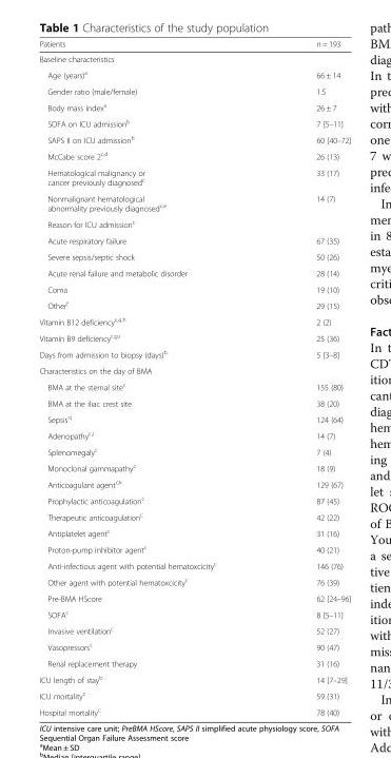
<table><thead><tr><td>Patients</td><td>n = 193</td></tr></thead><tbody><tr><td colspan="2">Baseline characteristics</td></tr><tr><td>Age (years)<sup>a</sup></td><td>66 ± 14</td></tr><tr><td>Gender ratio (male/female)</td><td>1.5</td></tr><tr><td>Body mass index<sup>a</sup></td><td>26 ± 7</td></tr><tr><td>SOFA on ICU admission<sup>b</sup></td><td>7 [5–11]</td></tr><tr><td>SAPS II on ICU admission<sup>b</sup></td><td>60 [40–72]</td></tr><tr><td>McCabe score 2<sup>c,d</sup></td><td>26 (13)</td></tr><tr><td>Hematological malignancy or cancer previously diagnosed<sup>c</sup></td><td>33 (17)</td></tr><tr><td>Nonmalignant hematological abnormality previously diagnosed<sup>c,e</sup></td><td>14 (7)</td></tr><tr><td colspan="2">Reason for ICU admission<sup>c</sup></td></tr><tr><td>Acute respiratory failure</td><td>67 (35)</td></tr><tr><td>Severe sepsis/septic shock</td><td>50 (26)</td></tr><tr><td>Acute renal failure and metabolic disorder</td><td>28 (14)</td></tr><tr><td>Coma</td><td>19 (10)</td></tr><tr><td>Other<sup>f</sup></td><td>29 (15)</td></tr><tr><td>Vitamin B12 deficiency<sup>c,g,h</sup></td><td>2 (2)</td></tr><tr><td>Vitamin B9 deficiency<sup>c,g,i</sup></td><td>25 (36)</td></tr><tr><td>Days from admission to biopsy (days)<sup>b</sup></td><td>5 [3–8]</td></tr><tr><td colspan="2">Characteristics on the day of BMA</td></tr><tr><td>BMA at the sternal site<sup>c</sup></td><td>155 (80)</td></tr><tr><td>BMA at the iliac crest site</td><td>38 (20)</td></tr><tr><td>Sepsis<sup>cj</sup></td><td>124 (64)</td></tr><tr><td>Adenopathy<sup>c,j</sup></td><td>14 (7)</td></tr><tr><td>Splenomegaly<sup>c</sup></td><td>7 (4)</td></tr><tr><td>Monoclonal gammapathy<sup>c</sup></td><td>18 (9)</td></tr><tr><td>Anticoagulant agent<sup>c,k</sup></td><td>129 (67)</td></tr><tr><td>Prophylactic anticoagulation<sup>c</sup></td><td>87 (45)</td></tr><tr><td>Therapeutic anticoagulation<sup>c</sup></td><td>42 (22)</td></tr><tr><td>Antiplatelet agent<sup>c</sup></td><td>31 (16)</td></tr><tr><td>Proton-pump inhibitor agent<sup>c</sup></td><td>40 (21)</td></tr><tr><td>Anti-infectious agent with potential hematoxcicity<sup>c</sup></td><td>146 (76)</td></tr><tr><td>Other agent with potential hematoxcicity<sup>c</sup></td><td>76 (39)</td></tr><tr><td>Pre-BMA HScore</td><td>62 [24–96]</td></tr><tr><td>SOFA<sup>c</sup></td><td>8 [5–11]</td></tr><tr><td>Invasive ventilation<sup>c</sup></td><td>52 (27)</td></tr><tr><td>Vasopressors<sup>c</sup></td><td>90 (47)</td></tr><tr><td>Renal replacement therapy</td><td>31 (16)</td></tr><tr><td>ICU length of stay<sup>b</sup></td><td>14 [7–29]</td></tr><tr><td>ICU mortality<sup>c</sup></td><td>59 (31)</td></tr><tr><td>Hospital mortality<sup>c</sup></td><td>78 (40)</td></tr></tbody></table>